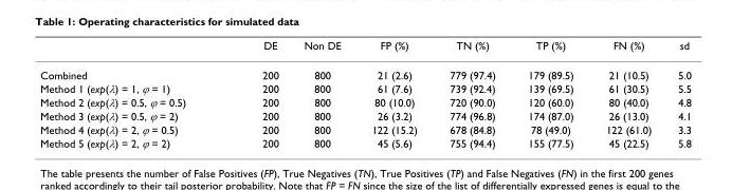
<table><thead><tr><td></td><td>DE</td><td>Non DE</td><td>FP (%)</td><td>TN (%)</td><td>TP (%)</td><td>FN (%)</td><td>sd</td></tr></thead><tbody><tr><td>Combined</td><td>200</td><td>800</td><td>21 (2.6)</td><td>779 (97.4)</td><td>179 (89.5)</td><td>21 (10.5)</td><td>5.0</td></tr><tr><td>Method 1 (exp(λ) = 1, ϕ = 1)</td><td>200</td><td>800</td><td>61 (7.6)</td><td>739 (92.4)</td><td>139 (69.5)</td><td>61 (30.5)</td><td>5.5</td></tr><tr><td>Method 2 (exp(λ) = 0.5, ϕ = 0.5)</td><td>200</td><td>800</td><td>80 (10.0)</td><td>720 (90.0)</td><td>120 (60.0)</td><td>80 (40.0)</td><td>4.8</td></tr><tr><td>Method 3 (exp(λ) = 0.5, ϕ = 2)</td><td>200</td><td>800</td><td>26 (3.2)</td><td>774 (96.8)</td><td>174 (87.0)</td><td>26 (13.0)</td><td>4.1</td></tr><tr><td>Method 4 (exp(λ) = 2, ϕ = 0.5)</td><td>200</td><td>800</td><td>122 (15.2)</td><td>678 (84.8)</td><td>78 (49.0)</td><td>122 (61.0)</td><td>3.3</td></tr><tr><td>Method 5 (exp(λ) = 2, ϕ = 2)</td><td>200</td><td>800</td><td>45 (5.6)</td><td>755 (94.4)</td><td>155 (77.5)</td><td>45 (22.5)</td><td>5.8</td></tr></tbody></table>